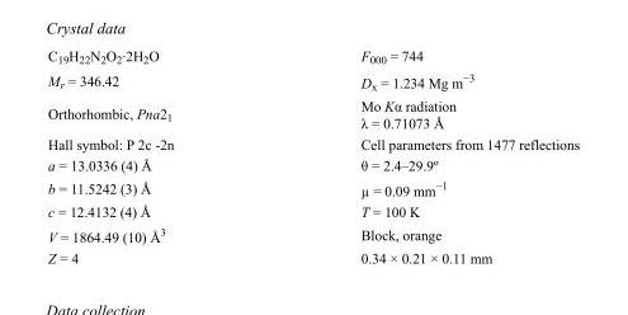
<table><tbody><tr><td>C<sub>19</sub>H<sub>22</sub>N<sub>2</sub>O<sub>2</sub>·2H<sub>2</sub>O</td><td>F000 = 744</td></tr><tr><td>M<sub>r</sub> = 346.42</td><td>D<sub>x</sub> = 1.234 Mg m<sup>−3</sup></td></tr><tr><td>Orthorhombic, Pna2<sub>1</sub></td><td>Mo Kα radiation λ = 0.71073 Å</td></tr><tr><td>Hall symbol: P 2c -2n</td><td>Cell parameters from 1477 reflections</td></tr><tr><td>a = 13.0336 (4) Å</td><td>θ = 2.4–29.9º</td></tr><tr><td>b = 11.5242 (3) Å</td><td>µ = 0.09 mm<sup>−1</sup></td></tr><tr><td>c = 12.4132 (4) Å</td><td>T = 100 K</td></tr><tr><td>V = 1864.49 (10) Å<sup>3</sup></td><td>Block, orange</td></tr><tr><td>Z = 4</td><td>0.34 × 0.21 × 0.11 mm</td></tr></tbody></table>